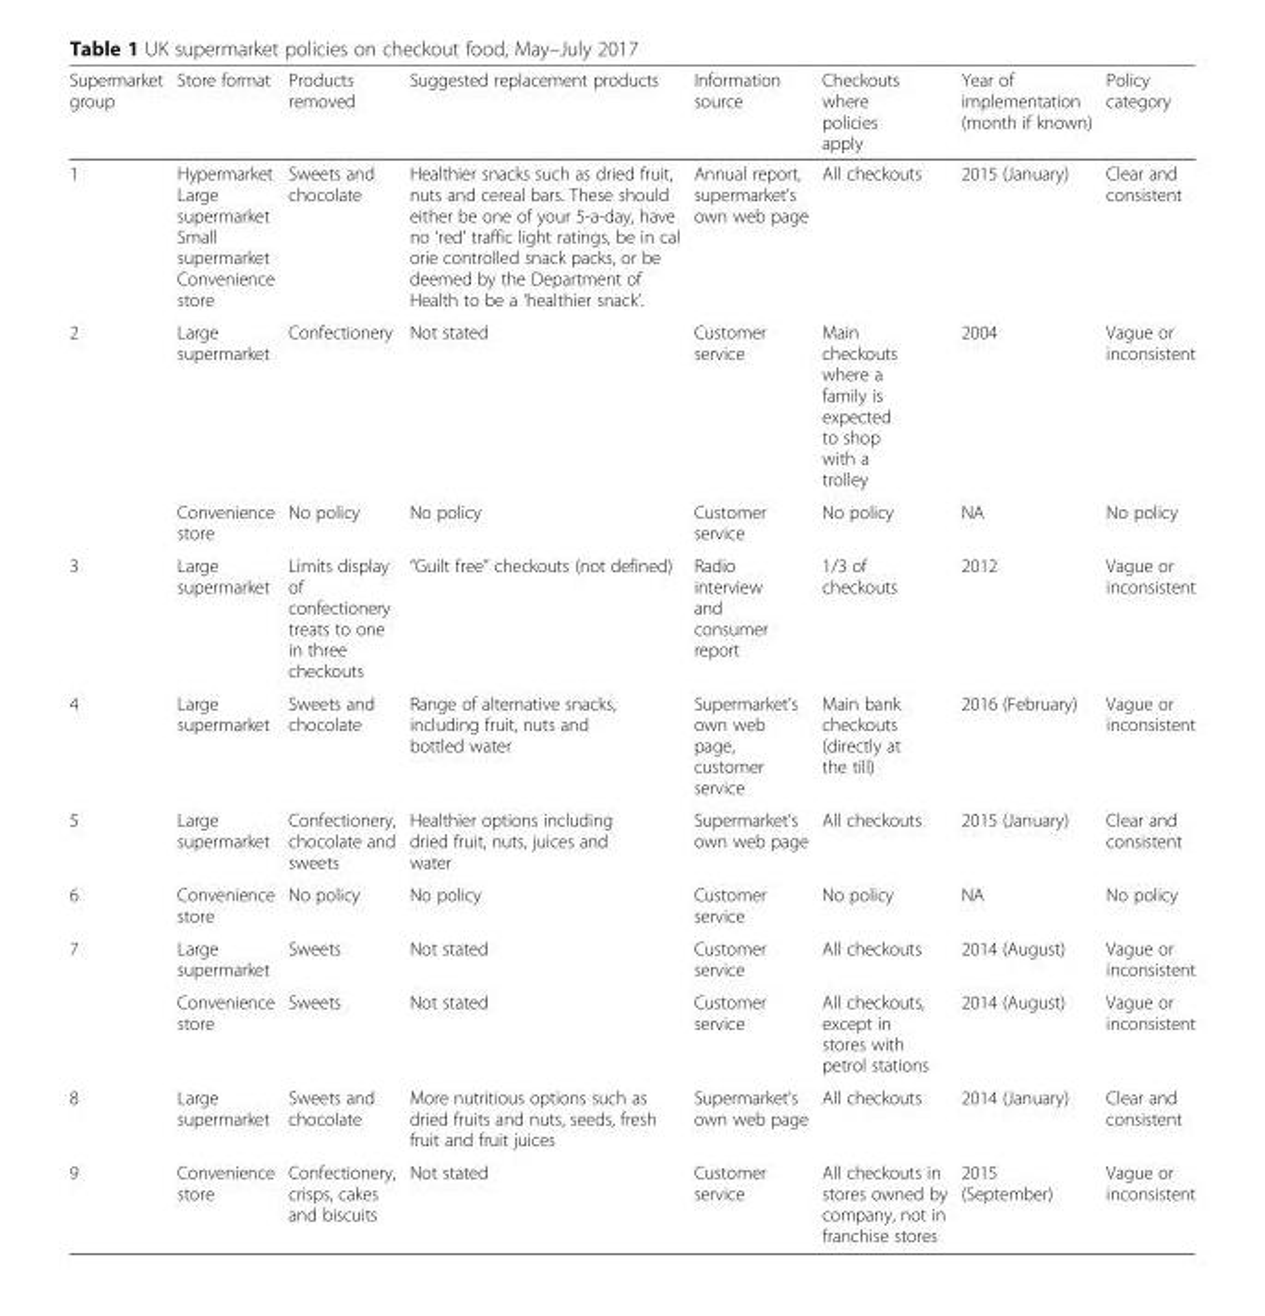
<table><thead><tr><td>Supermarket group</td><td>Store format</td><td>Products removed</td><td>Suggested replacement products</td><td>Information source</td><td>Checkouts where policies apply</td><td>Year of implementation (month if known)</td><td>Policy category</td></tr></thead><tbody><tr><td>1</td><td>Hypermarket Large supermarket Small supermarket Convenience store</td><td>Sweets and chocolate</td><td>Healthier snacks such as dried fruit, nuts and cereal bars. These should either be one of your 5-a-day, have no ‘red’ traffic light ratings, be in cal orie controlled snack packs, or be deemed by the Department of Health to be a ‘healthier snack’.</td><td>Annual report, supermarket’s own web page</td><td>All checkouts</td><td>2015 (January)</td><td>Clear and consistent</td></tr><tr><td rowspan="2">2</td><td>Large supermarket</td><td>Confectionery</td><td>Not stated</td><td>Customer service</td><td>Main checkouts where a family is expected to shop with a trolley</td><td>2004</td><td>Vague or inconsistent</td></tr><tr><td>Convenience store</td><td>No policy</td><td>No policy</td><td>Customer service</td><td>No policy</td><td>NA</td><td>No policy</td></tr><tr><td>3</td><td>Large supermarket</td><td>Limits display of confectionery treats to one in three checkouts</td><td>“Guilt free” checkouts (not defined)</td><td>Radio interview and consumer report</td><td>1/3 of checkouts</td><td>2012</td><td>Vague or inconsistent</td></tr><tr><td>4</td><td>Large supermarket</td><td>Sweets and chocolate</td><td>Range of alternative snacks, including fruit, nuts and bottled water</td><td>Supermarket’s own web page, customer service</td><td>Main bank checkouts (directly at the till)</td><td>2016 (February)</td><td>Vague or inconsistent</td></tr><tr><td>5</td><td>Large supermarket</td><td>Confectionery, chocolate and sweets</td><td>Healthier options including dried fruit, nuts, juices and water</td><td>Supermarket’s own web page</td><td>All checkouts</td><td>2015 (January)</td><td>Clear and consistent</td></tr><tr><td>6</td><td>Convenience store</td><td>No policy</td><td>No policy</td><td>Customer service</td><td>No policy</td><td>NA</td><td>No policy</td></tr><tr><td rowspan="2">7</td><td>Large supermarket</td><td>Sweets</td><td>Not stated</td><td>Customer service</td><td>All checkouts</td><td>2014 (August)</td><td>Vague or inconsistent</td></tr><tr><td>Convenience store</td><td>Sweets</td><td>Not stated</td><td>Customer service</td><td>All checkouts, except in stores with petrol stations</td><td>2014 (August)</td><td>Vague or inconsistent</td></tr><tr><td>8</td><td>Large supermarket</td><td>Sweets and chocolate</td><td>More nutritious options such as dried fruits and nuts, seeds, fresh fruit and fruit juices</td><td>Supermarket’s own web page</td><td>All checkouts</td><td>2014 (January)</td><td>Clear and consistent</td></tr><tr><td>9</td><td>Convenience store</td><td>Confectionery, crisps, cakes and biscuits</td><td>Not stated</td><td>Customer service</td><td>All checkouts in stores owned by company, not in franchise stores</td><td>2015 (September)</td><td>Vague or inconsistent</td></tr></tbody></table>